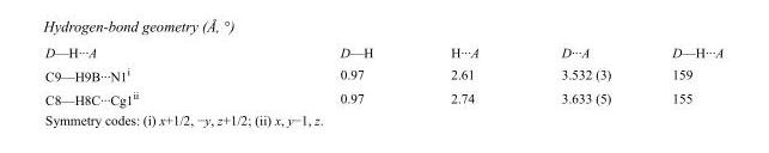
<table><tbody><tr><td>D—H···A</td><td>D—H</td><td>H···A</td><td>D···A</td><td>D—H···A</td></tr><tr><td>C9—H9B···N1<sup>i</sup></td><td>0.97</td><td>2.61</td><td>3.532 (3)</td><td>159</td></tr><tr><td>C8—H8C···Cg1<sup>ii</sup></td><td>0.97</td><td>2.74</td><td>3.633 (5)</td><td>155</td></tr></tbody></table>